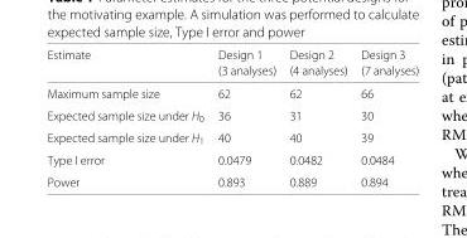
<table><thead><tr><td rowspan="2">Estimate</td><td rowspan="2">Design 1 (3 analyses)</td><td rowspan="2">Design 2 (4 analyses)</td><td rowspan="2">Design 3 (7 analyses)</td></tr><tr></tr></thead><tbody><tr><td>Maximum sample size</td><td>62</td><td>62</td><td>66</td></tr><tr><td>Expected sample size under H<sub>0</sub></td><td>36</td><td>31</td><td>30</td></tr><tr><td>Expected sample size under H<sub>1</sub></td><td>40</td><td>40</td><td>39</td></tr><tr><td>Type I error</td><td>0.0479</td><td>0.0482</td><td>0.0484</td></tr><tr><td>Power</td><td>0.893</td><td>0.889</td><td>0.894</td></tr></tbody></table>